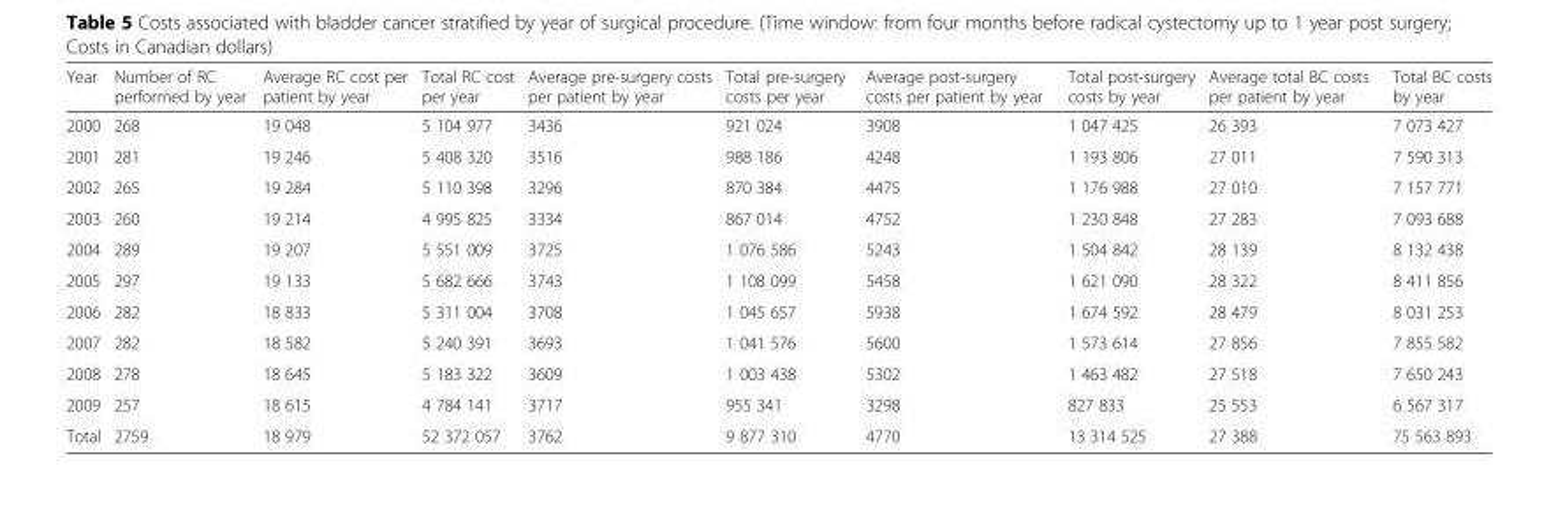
<table><thead><tr><td>Year</td><td>Number of RC performed by year</td><td>Average RC cost per patient by year</td><td>Total RC cost per year</td><td>Average pre-surgery costs per patient by year</td><td>Total pre-surgery costs per year</td><td>Average post-surgery costs per patient by year</td><td>Total post-surgery costs by year</td><td>Average total BC costs per patient by year</td><td>Total BC costs by year</td></tr></thead><tbody><tr><td>2000</td><td>268</td><td>19 048</td><td>5 104 977</td><td>3436</td><td>921 024</td><td>3908</td><td>1 047 425</td><td>26 393</td><td>7 073 427</td></tr><tr><td>2001</td><td>281</td><td>19 246</td><td>5 408 320</td><td>3516</td><td>988 186</td><td>4248</td><td>1 193 806</td><td>27 011</td><td>7 590 313</td></tr><tr><td>2002</td><td>265</td><td>19 284</td><td>5 110 398</td><td>3296</td><td>870 384</td><td>4475</td><td>1 176 988</td><td>27 010</td><td>7 157 771</td></tr><tr><td>2003</td><td>260</td><td>19 214</td><td>4 995 825</td><td>3334</td><td>867 014</td><td>4752</td><td>1 230 848</td><td>27 283</td><td>7 093 688</td></tr><tr><td>2004</td><td>289</td><td>19 207</td><td>5 551 009</td><td>3725</td><td>1 076 586</td><td>5243</td><td>1 504 842</td><td>28 139</td><td>8 132 438</td></tr><tr><td>2005</td><td>297</td><td>19 133</td><td>5 682 666</td><td>3743</td><td>1 108 099</td><td>5458</td><td>1 621 090</td><td>28 322</td><td>8 411 856</td></tr><tr><td>2006</td><td>282</td><td>18 833</td><td>5 311 004</td><td>3708</td><td>1 045 657</td><td>5938</td><td>1 674 592</td><td>28 479</td><td>8 031 253</td></tr><tr><td>2007</td><td>282</td><td>18 582</td><td>5 240 391</td><td>3693</td><td>1 041 576</td><td>5600</td><td>1 573 614</td><td>27 856</td><td>7 855 582</td></tr><tr><td>2008</td><td>278</td><td>18 645</td><td>5 183 322</td><td>3609</td><td>1 003 438</td><td>5302</td><td>1 463 482</td><td>27 518</td><td>7 650 243</td></tr><tr><td>2009</td><td>257</td><td>18 615</td><td>4 784 141</td><td>3717</td><td>955 341</td><td>3298</td><td>827 833</td><td>25 553</td><td>6 567 317</td></tr><tr><td>Total</td><td>2759</td><td>18 979</td><td>52 372 057</td><td>3762</td><td>9 877 310</td><td>4770</td><td>13 314 525</td><td>27 388</td><td>75 563 893</td></tr></tbody></table>